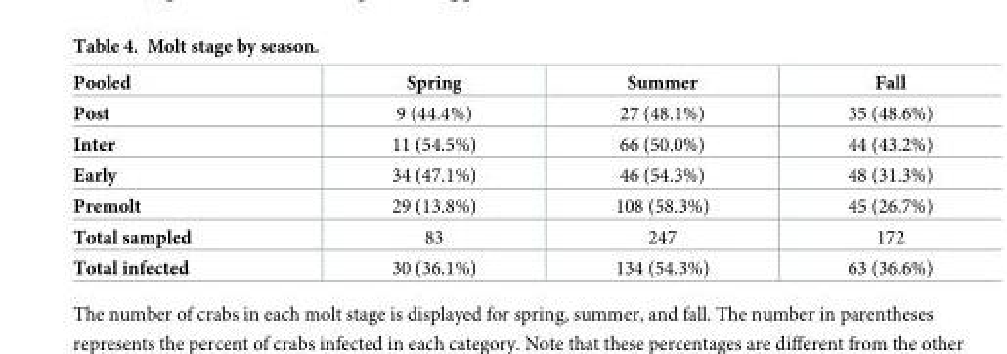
<table><thead><tr><td>Pooled</td><td>Spring</td><td>Summer</td><td>Fall</td></tr></thead><tbody><tr><td>Post</td><td>9 (44.4%)</td><td>27 (48.1%)</td><td>35 (48.6%)</td></tr><tr><td>Inter</td><td>11 (54.5%)</td><td>66 (50.0%)</td><td>44 (43.2%)</td></tr><tr><td>Early</td><td>34 (47.1%)</td><td>46 (54.3%)</td><td>48 (31.3%)</td></tr><tr><td>Premolt</td><td>29 (13.8%)</td><td>108 (58.3%)</td><td>45 (26.7%)</td></tr><tr><td>Total sampled</td><td>83</td><td>247</td><td>172</td></tr><tr><td>Total infected</td><td>30 (36.1%)</td><td>134 (54.3%)</td><td>63 (36.6%)</td></tr></tbody></table>